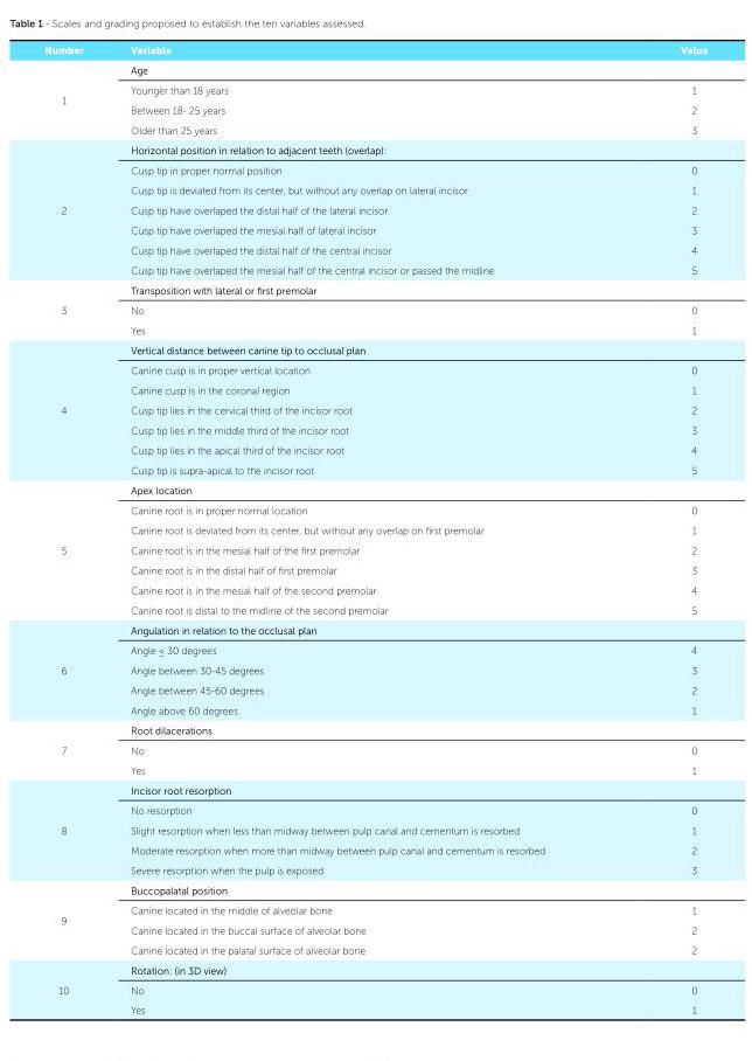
<table><thead><tr><td>Number</td><td>Variable</td><td>Value</td></tr></thead><tbody><tr><td rowspan="4">1</td><td>Age</td><td></td></tr><tr><td>Younger than 18 years</td><td>1</td></tr><tr><td>Between 18- 25 years</td><td>2</td></tr><tr><td>Older than 25 years</td><td>3</td></tr><tr><td rowspan="7">2</td><td>Horizontal position in relation to adjacent teeth (overlap):</td><td></td></tr><tr><td>Cusp tip in proper normal position</td><td>0</td></tr><tr><td>Cusp tip is deviated from its center, but without any overlap on lateral incisor</td><td>1</td></tr><tr><td>Cusp tip have overlaped the distal half of the lateral incisor</td><td>2</td></tr><tr><td>Cusp tip have overlaped the mesial half of lateral incisor</td><td>3</td></tr><tr><td>Cusp tip have overlaped the distal half of the central incisor</td><td>4</td></tr><tr><td>Cusp tip have overlaped the mesial half of the central incisor or passed the midline</td><td>5</td></tr><tr><td rowspan="3">3</td><td>Transposition with lateral or first premolar</td><td></td></tr><tr><td>No</td><td>0</td></tr><tr><td>Yes</td><td>1</td></tr><tr><td rowspan="7">4</td><td>Vertical distance between canine tip to occlusal plan</td><td></td></tr><tr><td>Canine cusp is in proper vertical location</td><td>0</td></tr><tr><td>Canine cusp is in the coronal region</td><td>1</td></tr><tr><td>Cusp tip lies in the cervical third of the incisor root</td><td>2</td></tr><tr><td>Cusp tip lies in the middle third of the incisor root</td><td>3</td></tr><tr><td>Cusp tip lies in the apical third of the incisor root</td><td>4</td></tr><tr><td>Cusp tip is supra-apical to the incisor root</td><td>5</td></tr><tr><td rowspan="7">5</td><td>Apex location</td><td></td></tr><tr><td>Canine root is in proper normal location</td><td>0</td></tr><tr><td>Canine root is deviated from its center, but without any overlap on first premolar</td><td>1</td></tr><tr><td>Canine root is in the mesial half of the first premolar</td><td>2</td></tr><tr><td>Canine root is in the distal half of first premolar</td><td>3</td></tr><tr><td>Canine root is in the mesial half of the second premolar</td><td>4</td></tr><tr><td>Canine root is distal to the midline of the second premolar</td><td>5</td></tr><tr><td rowspan="5">6</td><td>Angulation in relation to the occlusal plan</td><td></td></tr><tr><td>Angle ≤ 30 degrees</td><td>4</td></tr><tr><td>Angle between 30-45 degrees</td><td>3</td></tr><tr><td>Angle between 45-60 degrees</td><td>2</td></tr><tr><td>Angle above 60 degrees</td><td>1</td></tr><tr><td rowspan="3">7</td><td>Root dilacerations</td><td></td></tr><tr><td>No</td><td>0</td></tr><tr><td>Yes</td><td>1</td></tr><tr><td rowspan="5">8</td><td>Incisor root resorption</td><td></td></tr><tr><td>No resorption</td><td>0</td></tr><tr><td>Slight resorption when less than midway between pulp canal and cementum is resorbed</td><td>1</td></tr><tr><td>Moderate resorption when more than midway between pulp canal and cementum is resorbed</td><td>2</td></tr><tr><td>Severe resorption when the pulp is exposed</td><td>3</td></tr><tr><td rowspan="4">9</td><td>Buccopalatal position</td><td></td></tr><tr><td>Canine located in the middle of alveolar bone</td><td>1</td></tr><tr><td>Canine located in the buccal surface of alveolar bone</td><td>2</td></tr><tr><td>Canine located in the palatal surface of alveolar bone</td><td>2</td></tr><tr><td rowspan="3">10</td><td>Rotation: (in 3D view)</td><td></td></tr><tr><td>No</td><td>0</td></tr><tr><td>Yes</td><td>1</td></tr></tbody></table>